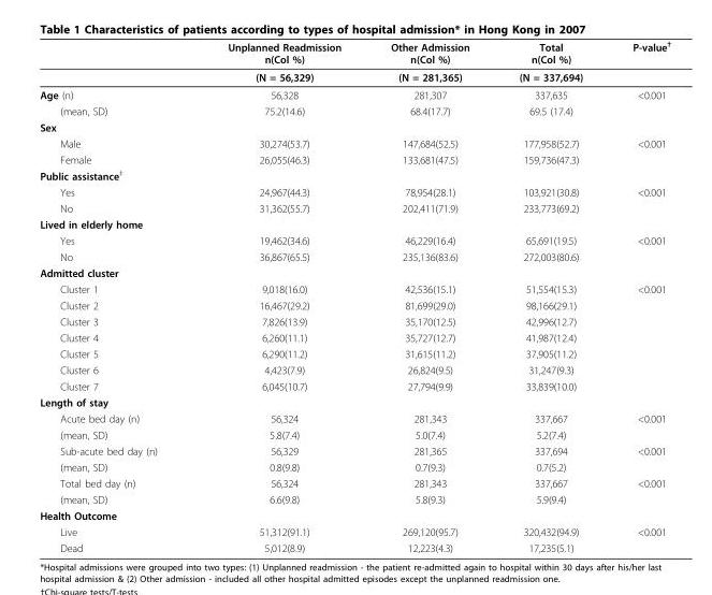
<table><thead><tr><td></td><td>Unplanned Readmission n(Col %)</td><td>Other Admission n(Col %)</td><td>Total n(Col %)</td><td>P-value<sup>†</sup></td></tr></thead><tbody><tr><td></td><td>(N = 56,329)</td><td>(N = 281,365)</td><td>(N = 337,694)</td><td></td></tr><tr><td>Age (n)</td><td>56,328</td><td>281,307</td><td>337,635</td><td>&lt;0.001</td></tr><tr><td>(mean, SD)</td><td>75.2(14.6)</td><td>68.4(17.7)</td><td>69.5 (17.4)</td><td></td></tr><tr><td colspan="5">Sex</td></tr><tr><td>Male</td><td>30,274(53.7)</td><td>147,684(52.5)</td><td>177,958(52.7)</td><td>&lt;0.001</td></tr><tr><td>Female</td><td>26,055(46.3)</td><td>133,681(47.5)</td><td>159,736(47.3)</td><td></td></tr><tr><td colspan="5">Public assistance<sup>‡</sup></td></tr><tr><td>Yes</td><td>24,967(44.3)</td><td>78,954(28.1)</td><td>103,921(30.8)</td><td>&lt;0.001</td></tr><tr><td>No</td><td>31,362(55.7)</td><td>202,411(71.9)</td><td>233,773(69.2)</td><td></td></tr><tr><td colspan="5">Lived in elderly home</td></tr><tr><td>Yes</td><td>19,462(34.6)</td><td>46,229(16.4)</td><td>65,691(19.5)</td><td>&lt;0.001</td></tr><tr><td>No</td><td>36,867(65.5)</td><td>235,136(83.6)</td><td>272,003(80.6)</td><td></td></tr><tr><td colspan="5">Admitted cluster</td></tr><tr><td>Cluster 1</td><td>9,018(16.0)</td><td>42,536(15.1)</td><td>51,554(15.3)</td><td>&lt;0.001</td></tr><tr><td>Cluster 2</td><td>16,467(29.2)</td><td>81,699(29.0)</td><td>98,166(29.1)</td><td></td></tr><tr><td>Cluster 3</td><td>7,826(13.9)</td><td>35,170(12.5)</td><td>42,996(12.7)</td><td></td></tr><tr><td>Cluster 4</td><td>6,260(11.1)</td><td>35,727(12.7)</td><td>41,987(12.4)</td><td></td></tr><tr><td>Cluster 5</td><td>6,290(11.2)</td><td>31,615(11.2)</td><td>37,905(11.2)</td><td></td></tr><tr><td>Cluster 6</td><td>4,423(7.9)</td><td>26,824(9.5)</td><td>31,247(9.3)</td><td></td></tr><tr><td>Cluster 7</td><td>6,045(10.7)</td><td>27,794(9.9)</td><td>33,839(10.0)</td><td></td></tr><tr><td colspan="5">Length of stay</td></tr><tr><td>Acute bed day (n)</td><td>56,324</td><td>281,343</td><td>337,667</td><td>&lt;0.001</td></tr><tr><td>(mean, SD)</td><td>5.8(7.4)</td><td>5.0(7.4)</td><td>5.2(7.4)</td><td></td></tr><tr><td>Sub-acute bed day (n)</td><td>56,329</td><td>281,365</td><td>337,694</td><td>&lt;0.001</td></tr><tr><td>(mean, SD)</td><td>0.8(9.8)</td><td>0.7(9.3)</td><td>0.7(5.2)</td><td></td></tr><tr><td>Total bed day (n)</td><td>56,324</td><td>281,343</td><td>337,667</td><td>&lt;0.001</td></tr><tr><td>(mean, SD)</td><td>6.6(9.8)</td><td>5.8(9.3)</td><td>5.9(9.4)</td><td></td></tr><tr><td colspan="5">Health Outcome</td></tr><tr><td>Live</td><td>51,312(91.1)</td><td>269,120(95.7)</td><td>320,432(94.9)</td><td>&lt;0.001</td></tr><tr><td>Dead</td><td>5,012(8.9)</td><td>12,223(4.3)</td><td>17,235(5.1)</td><td></td></tr></tbody></table>